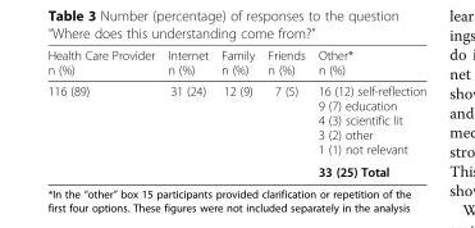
<table><thead><tr><td>Health Care Provider n (%)</td><td>Internet n (%)</td><td>Family n (%)</td><td>Friends n (%)</td><td>Other* n (%)</td></tr></thead><tbody><tr><td rowspan="2">116 (89)</td><td rowspan="2">31 (24)</td><td rowspan="2">12 (9)</td><td rowspan="2">7 (5)</td><td>16 (12) self-reflection 9 (7) education 4 (3) scientific lit 3 (2) other 1 (1) not relevant</td></tr><tr><td>33 (25) Total</td></tr></tbody></table>